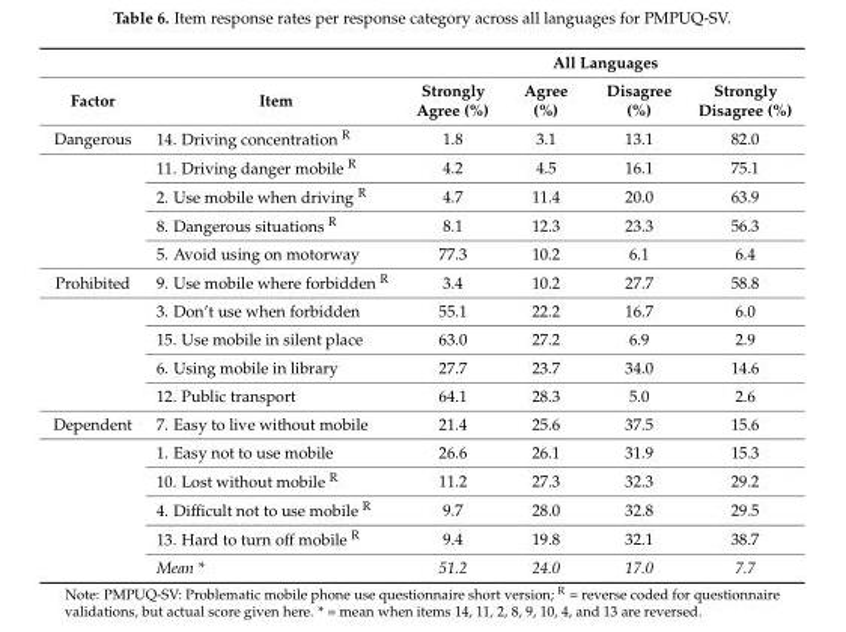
<table><thead><tr><td rowspan="2">Factor</td><td rowspan="2">Item</td><td colspan="4">All Languages</td></tr><tr><td>Strongly Agree (%)</td><td>Agree (%)</td><td>Disagree (%)</td><td>Strongly Disagree (%)</td></tr></thead><tbody><tr><td rowspan="5">Dangerous</td><td>14. Driving concentration <sup>R</sup></td><td>1.8</td><td>3.1</td><td>13.1</td><td>82.0</td></tr><tr><td>11. Driving danger mobile <sup>R</sup></td><td>4.2</td><td>4.5</td><td>16.1</td><td>75.1</td></tr><tr><td>2. Use mobile when driving <sup>R</sup></td><td>4.7</td><td>11.4</td><td>20.0</td><td>63.9</td></tr><tr><td>8. Dangerous situations <sup>R</sup></td><td>8.1</td><td>12.3</td><td>23.3</td><td>56.3</td></tr><tr><td>5. Avoid using on motorway</td><td>77.3</td><td>10.2</td><td>6.1</td><td>6.4</td></tr><tr><td rowspan="5">Prohibited</td><td>9. Use mobile where forbidden <sup>R</sup></td><td>3.4</td><td>10.2</td><td>27.7</td><td>58.8</td></tr><tr><td>3. Don’t use when forbidden</td><td>55.1</td><td>22.2</td><td>16.7</td><td>6.0</td></tr><tr><td>15. Use mobile in silent place</td><td>63.0</td><td>27.2</td><td>6.9</td><td>2.9</td></tr><tr><td>6. Using mobile in library</td><td>27.7</td><td>23.7</td><td>34.0</td><td>14.6</td></tr><tr><td>12. Public transport</td><td>64.1</td><td>28.3</td><td>5.0</td><td>2.6</td></tr><tr><td rowspan="6">Dependent</td><td>7. Easy to live without mobile</td><td>21.4</td><td>25.6</td><td>37.5</td><td>15.6</td></tr><tr><td>1. Easy not to use mobile</td><td>26.6</td><td>26.1</td><td>31.9</td><td>15.3</td></tr><tr><td>10. Lost without mobile <sup>R</sup></td><td>11.2</td><td>27.3</td><td>32.3</td><td>29.2</td></tr><tr><td>4. Difficult not to use mobile <sup>R</sup></td><td>9.7</td><td>28.0</td><td>32.8</td><td>29.5</td></tr><tr><td>13. Hard to turn off mobile <sup>R</sup></td><td>9.4</td><td>19.8</td><td>32.1</td><td>38.7</td></tr><tr><td>Mean *</td><td>51.2</td><td>24.0</td><td>17.0</td><td>7.7</td></tr></tbody></table>